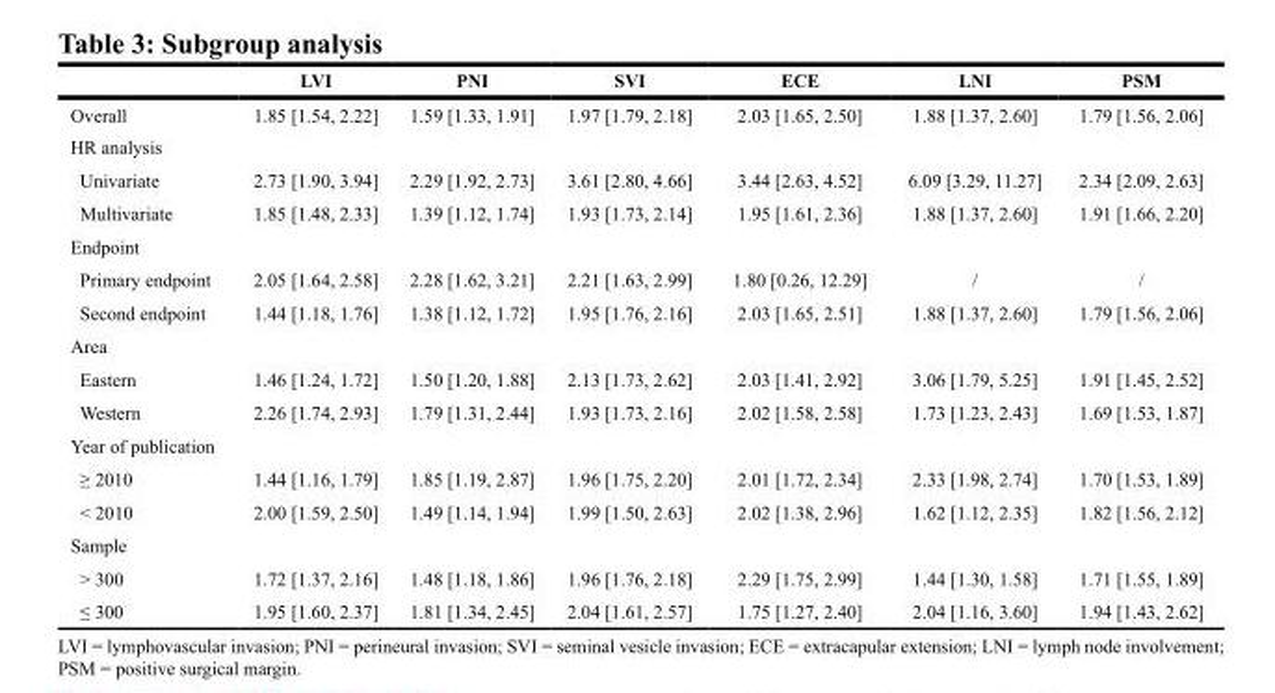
<table><thead><tr><td></td><td>LVI</td><td>PNI</td><td>SVI</td><td>ECE</td><td>LNI</td><td>PSM</td></tr></thead><tbody><tr><td>Overall</td><td>1.85 [1.54, 2.22]</td><td>1.59 [1.33, 1.91]</td><td>1.97 [1.79, 2.18]</td><td>2.03 [1.65, 2.50]</td><td>1.88 [1.37, 2.60]</td><td>1.79 [1.56, 2.06]</td></tr><tr><td colspan="7">HR analysis</td></tr><tr><td>Univariate</td><td>2.73 [1.90, 3.94]</td><td>2.29 [1.92, 2.73]</td><td>3.61 [2.80, 4.66]</td><td>3.44 [2.63, 4.52]</td><td>6.09 [3.29, 11.27]</td><td>2.34 [2.09, 2.63]</td></tr><tr><td>Multivariate</td><td>1.85 [1.48, 2.33]</td><td>1.39 [1.12, 1.74]</td><td>1.93 [1.73, 2.14]</td><td>1.95 [1.61, 2.36]</td><td>1.88 [1.37, 2.60]</td><td>1.91 [1.66, 2.20]</td></tr><tr><td colspan="7">Endpoint</td></tr><tr><td>Primary endpoint</td><td>2.05 [1.64, 2.58]</td><td>2.28 [1.62, 3.21]</td><td>2.21 [1.63, 2.99]</td><td>1.80 [0.26, 12.29]</td><td>/</td><td>/</td></tr><tr><td>Second endpoint</td><td>1.44 [1.18, 1.76]</td><td>1.38 [1.12, 1.72]</td><td>1.95 [1.76, 2.16]</td><td>2.03 [1.65, 2.51]</td><td>1.88 [1.37, 2.60]</td><td>1.79 [1.56, 2.06]</td></tr><tr><td colspan="7">Area</td></tr><tr><td>Eastern</td><td>1.46 [1.24, 1.72]</td><td>1.50 [1.20, 1.88]</td><td>2.13 [1.73, 2.62]</td><td>2.03 [1.41, 2.92]</td><td>3.06 [1.79, 5.25]</td><td>1.91 [1.45, 2.52]</td></tr><tr><td>Western</td><td>2.26 [1.74, 2.93]</td><td>1.79 [1.31, 2.44]</td><td>1.93 [1.73, 2.16]</td><td>2.02 [1.58, 2.58]</td><td>1.73 [1.23, 2.43]</td><td>1.69 [1.53, 1.87]</td></tr><tr><td colspan="7">Year of publication</td></tr><tr><td>≥ 2010</td><td>1.44 [1.16, 1.79]</td><td>1.85 [1.19, 2.87]</td><td>1.96 [1.75, 2.20]</td><td>2.01 [1.72, 2.34]</td><td>2.33 [1.98, 2.74]</td><td>1.70 [1.53, 1.89]</td></tr><tr><td>&lt; 2010</td><td>2.00 [1.59, 2.50]</td><td>1.49 [1.14, 1.94]</td><td>1.99 [1.50, 2.63]</td><td>2.02 [1.38, 2.96]</td><td>1.62 [1.12, 2.35]</td><td>1.82 [1.56, 2.12]</td></tr><tr><td colspan="7">Sample</td></tr><tr><td>&gt; 300</td><td>1.72 [1.37, 2.16]</td><td>1.48 [1.18, 1.86]</td><td>1.96 [1.76, 2.18]</td><td>2.29 [1.75, 2.99]</td><td>1.44 [1.30, 1.58]</td><td>1.71 [1.55, 1.89]</td></tr><tr><td>≤ 300</td><td>1.95 [1.60, 2.37]</td><td>1.81 [1.34, 2.45]</td><td>2.04 [1.61, 2.57]</td><td>1.75 [1.27, 2.40]</td><td>2.04 [1.16, 3.60]</td><td>1.94 [1.43, 2.62]</td></tr></tbody></table>